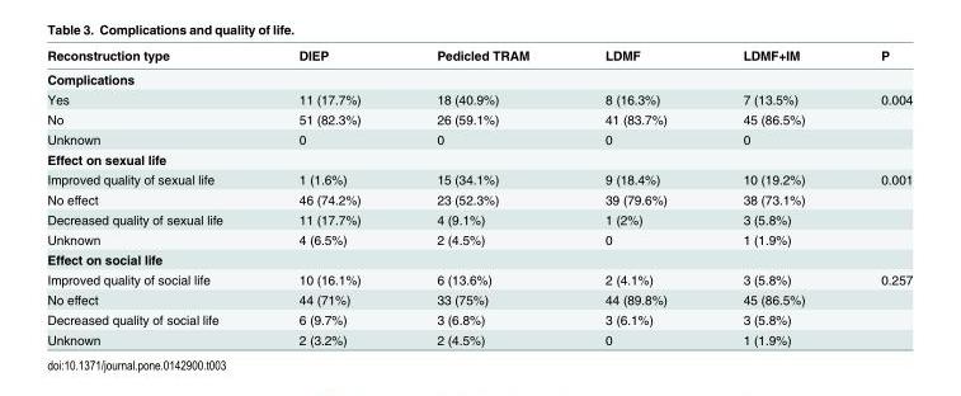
<table><thead><tr><td>Reconstruction type</td><td>DIEP</td><td>Pedicled TRAM</td><td>LDMF</td><td>LDMF+IM</td><td>P</td></tr></thead><tbody><tr><td colspan="6">Complications</td></tr><tr><td>Yes</td><td>11 (17.7%)</td><td>18 (40.9%)</td><td>8 (16.3%)</td><td>7 (13.5%)</td><td>0.004</td></tr><tr><td>No</td><td>51 (82.3%)</td><td>26 (59.1%)</td><td>41 (83.7%)</td><td>45 (86.5%)</td><td></td></tr><tr><td>Unknown</td><td>0</td><td>0</td><td>0</td><td>0</td><td></td></tr><tr><td colspan="6">Effect on sexual life</td></tr><tr><td>Improved quality of sexual life</td><td>1 (1.6%)</td><td>15 (34.1%)</td><td>9 (18.4%)</td><td>10 (19.2%)</td><td>0.001</td></tr><tr><td>No effect</td><td>46 (74.2%)</td><td>23 (52.3%)</td><td>39 (79.6%)</td><td>38 (73.1%)</td><td></td></tr><tr><td>Decreased quality of sexual life</td><td>11 (17.7%)</td><td>4 (9.1%)</td><td>1 (2%)</td><td>3 (5.8%)</td><td></td></tr><tr><td>Unknown</td><td>4 (6.5%)</td><td>2 (4.5%)</td><td>0</td><td>1 (1.9%)</td><td></td></tr><tr><td colspan="6">Effect on social life</td></tr><tr><td>Improved quality of social life</td><td>10 (16.1%)</td><td>6 (13.6%)</td><td>2 (4.1%)</td><td>3 (5.8%)</td><td>0.257</td></tr><tr><td>No effect</td><td>44 (71%)</td><td>33 (75%)</td><td>44 (89.8%)</td><td>45 (86.5%)</td><td></td></tr><tr><td>Decreased quality of social life</td><td>6 (9.7%)</td><td>3 (6.8%)</td><td>3 (6.1%)</td><td>3 (5.8%)</td><td></td></tr><tr><td>Unknown</td><td>2 (3.2%)</td><td>2 (4.5%)</td><td>0</td><td>1 (1.9%)</td><td></td></tr></tbody></table>